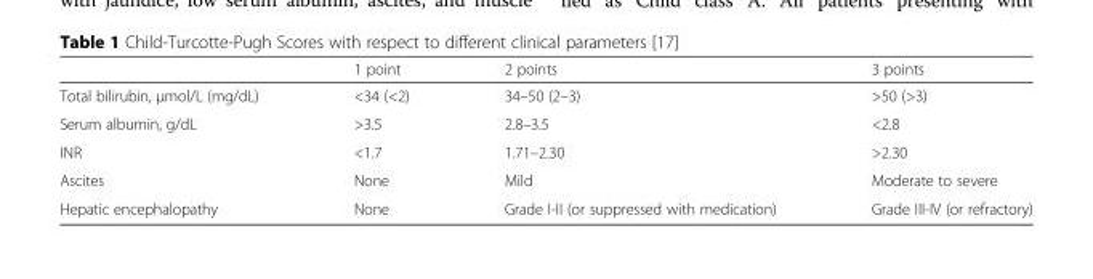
<table><thead><tr><td></td><td>1 point</td><td>2 points</td><td>3 points</td></tr></thead><tbody><tr><td>Total bilirubin, μmol/L (mg/dL)</td><td>&lt;34 (&lt;2)</td><td>34–50 (2–3)</td><td>&gt;50 (&gt;3)</td></tr><tr><td>Serum albumin, g/dL</td><td>&gt;3.5</td><td>2.8–3.5</td><td>&lt;2.8</td></tr><tr><td>INR</td><td>&lt;1.7</td><td>1.71–2.30</td><td>&gt;2.30</td></tr><tr><td>Ascites</td><td>None</td><td>Mild</td><td>Moderate to severe</td></tr><tr><td>Hepatic encephalopathy</td><td>None</td><td>Grade I-II (or suppressed with medication)</td><td>Grade III-IV (or refractory)</td></tr></tbody></table>